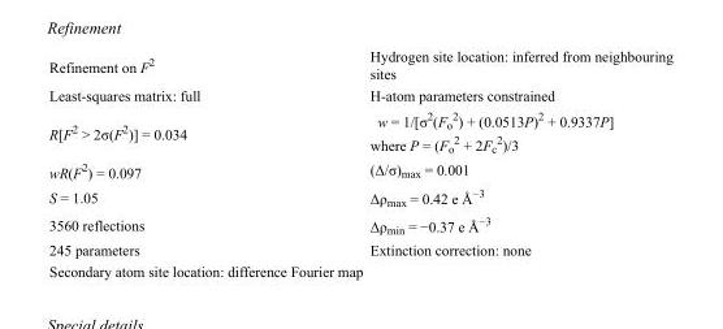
<table><tbody><tr><td>Refinement on F<sup>2</sup></td><td>Hydrogen site location: inferred from neighbouring sites</td></tr><tr><td>Least-squares matrix: full</td><td>H-atom parameters constrained</td></tr><tr><td>R[F<sup>2</sup> &gt; 2σ(F<sup>2</sup>)] = 0.034</td><td>w = 1/[σ<sup>2</sup>(F<sub>o</sub> <sup>2</sup>) + (0.0513P)<sup>2</sup> + 0.9337P] where P = (F<sub>o</sub> <sup>2</sup> + 2F<sub>c</sub> <sup>2</sup>)/3</td></tr><tr><td>wR(F<sup>2</sup>) = 0.097</td><td>(Δ/σ)<sub>max</sub> = 0.001</td></tr><tr><td>S = 1.05</td><td>Δρ<sub>max</sub> = 0.42 e Å<sup>−3</sup></td></tr><tr><td>3560 reflections</td><td>Δρ<sub>min</sub> = −0.37 e Å<sup>−3</sup></td></tr><tr><td>245 parameters</td><td>Extinction correction: none</td></tr><tr><td>Secondary atom site location: difference Fourier map</td><td></td></tr></tbody></table>